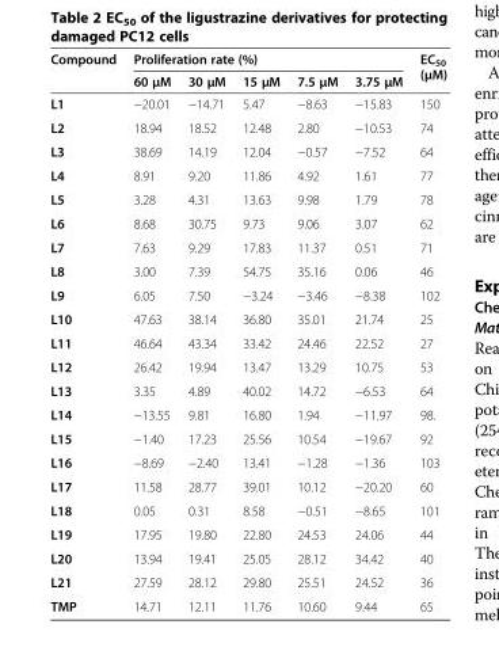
<table><thead><tr><td rowspan="2">Compound</td><td colspan="5">Proliferation rate (%)</td><td rowspan="2">EC<sub>50</sub> (μM)</td></tr><tr><td>60 μM</td><td>30 μM</td><td>15 μM</td><td>7.5 μM</td><td>3.75 μM</td></tr></thead><tbody><tr><td>L1</td><td>−20.01</td><td>−14.71</td><td>5.47</td><td>−8.63</td><td>−15.83</td><td>150</td></tr><tr><td>L2</td><td>18.94</td><td>18.52</td><td>12.48</td><td>2.80</td><td>−10.53</td><td>74</td></tr><tr><td>L3</td><td>38.69</td><td>14.19</td><td>12.04</td><td>−0.57</td><td>−7.52</td><td>64</td></tr><tr><td>L4</td><td>8.91</td><td>9.20</td><td>11.86</td><td>4.92</td><td>1.61</td><td>77</td></tr><tr><td>L5</td><td>3.28</td><td>4.31</td><td>13.63</td><td>9.98</td><td>1.79</td><td>78</td></tr><tr><td>L6</td><td>8.68</td><td>30.75</td><td>9.73</td><td>9.06</td><td>3.07</td><td>62</td></tr><tr><td>L7</td><td>7.63</td><td>9.29</td><td>17.83</td><td>11.37</td><td>0.51</td><td>71</td></tr><tr><td>L8</td><td>3.00</td><td>7.39</td><td>54.75</td><td>35.16</td><td>0.06</td><td>46</td></tr><tr><td>L9</td><td>6.05</td><td>7.50</td><td>−3.24</td><td>−3.46</td><td>−8.38</td><td>102</td></tr><tr><td>L10</td><td>47.63</td><td>38.14</td><td>36.80</td><td>35.01</td><td>21.74</td><td>25</td></tr><tr><td>L11</td><td>46.64</td><td>43.34</td><td>33.42</td><td>24.46</td><td>22.52</td><td>27</td></tr><tr><td>L12</td><td>26.42</td><td>19.94</td><td>13.47</td><td>13.29</td><td>10.75</td><td>53</td></tr><tr><td>L13</td><td>3.35</td><td>4.89</td><td>40.02</td><td>14.72</td><td>−6.53</td><td>64</td></tr><tr><td>L14</td><td>−13.55</td><td>9.81</td><td>16.80</td><td>1.94</td><td>−11.97</td><td>98.</td></tr><tr><td>L15</td><td>−1.40</td><td>17.23</td><td>25.56</td><td>10.54</td><td>−19.67</td><td>92</td></tr><tr><td>L16</td><td>−8.69</td><td>−2.40</td><td>13.41</td><td>−1.28</td><td>−1.36</td><td>103</td></tr><tr><td>L17</td><td>11.58</td><td>28.77</td><td>39.01</td><td>10.12</td><td>−20.20</td><td>60</td></tr><tr><td>L18</td><td>0.05</td><td>0.31</td><td>8.58</td><td>−0.51</td><td>−8.65</td><td>101</td></tr><tr><td>L19</td><td>17.95</td><td>19.80</td><td>22.80</td><td>24.53</td><td>24.06</td><td>44</td></tr><tr><td>L20</td><td>13.94</td><td>19.41</td><td>25.05</td><td>28.12</td><td>34.42</td><td>40</td></tr><tr><td>L21</td><td>27.59</td><td>28.12</td><td>29.80</td><td>25.51</td><td>24.52</td><td>36</td></tr><tr><td>TMP</td><td>14.71</td><td>12.11</td><td>11.76</td><td>10.60</td><td>9.44</td><td>65</td></tr></tbody></table>